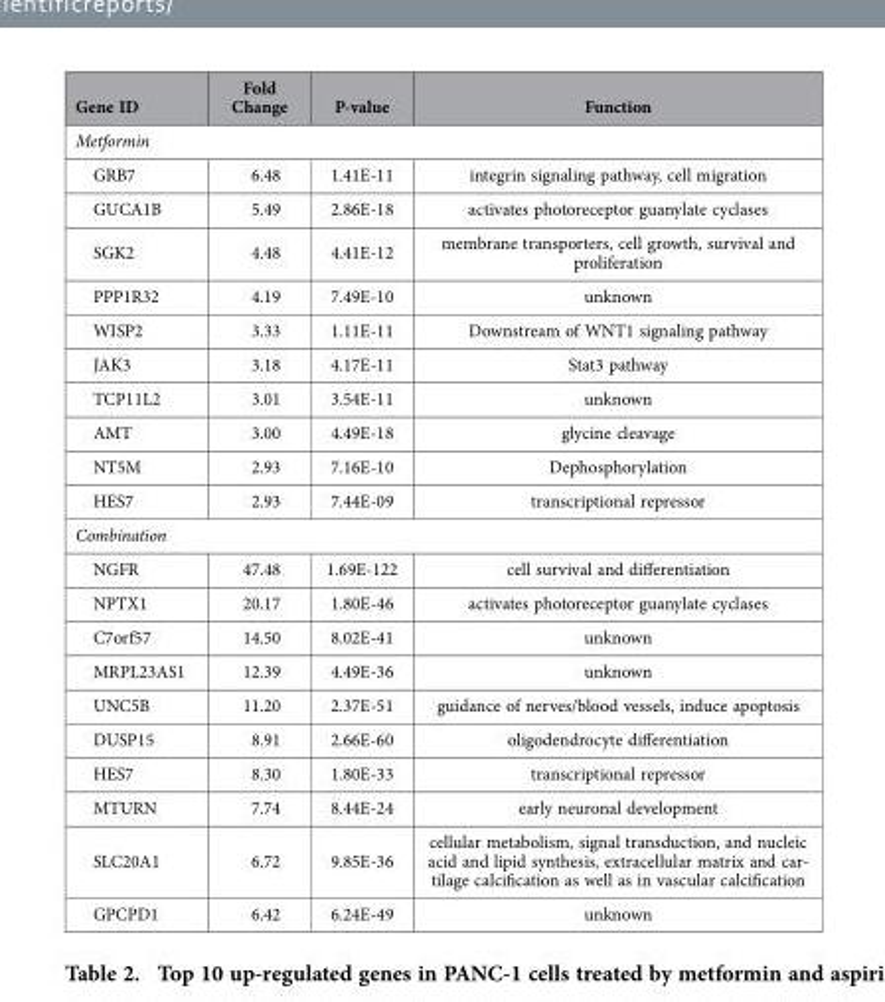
<table><thead><tr><td>Gene ID</td><td>Fold Change</td><td>P-value</td><td>Function</td></tr></thead><tbody><tr><td colspan="4">Metformin</td></tr><tr><td>GRB7</td><td>6.48</td><td>1.41E-11</td><td>integrin signaling pathway, cell migration</td></tr><tr><td>GUCA1B</td><td>5.49</td><td>2.86E-18</td><td>activates photoreceptor guanylate cyclases</td></tr><tr><td>SGK2</td><td>4.48</td><td>4.41E-12</td><td>membrane transporters, cell growth, survival and proliferation</td></tr><tr><td>PPP1R32</td><td>4.19</td><td>7.49E-10</td><td>unknown</td></tr><tr><td>WISP2</td><td>3.33</td><td>1.11E-11</td><td>Downstream of WNT1 signaling pathway</td></tr><tr><td>JAK3</td><td>3.18</td><td>4.17E-11</td><td>Stat3 pathway</td></tr><tr><td>TCP11L2</td><td>3.01</td><td>3.54E-11</td><td>unknown</td></tr><tr><td>AMT</td><td>3.00</td><td>4.49E-18</td><td>glycine cleavage</td></tr><tr><td>NT5M</td><td>2.93</td><td>7.16E-10</td><td>Dephosphorylation</td></tr><tr><td>HES7</td><td>2.93</td><td>7.44E-09</td><td>transcriptional repressor</td></tr><tr><td colspan="4">Combination</td></tr><tr><td>NGFR</td><td>47.48</td><td>1.69E-122</td><td>cell survival and differentiation</td></tr><tr><td>NPTX1</td><td>20.17</td><td>1.80E-46</td><td>activates photoreceptor guanylate cyclases</td></tr><tr><td>C7orf57</td><td>14.50</td><td>8.02E-41</td><td>unknown</td></tr><tr><td>MRPL23AS1</td><td>12.39</td><td>4.49E-36</td><td>unknown</td></tr><tr><td>UNC5B</td><td>11.20</td><td>2.37E-51</td><td>guidance of nerves/blood vessels, induce apoptosis</td></tr><tr><td>DUSP15</td><td>8.91</td><td>2.66E-60</td><td>oligodendrocyte differentiation</td></tr><tr><td>HES7</td><td>8.30</td><td>1.80E-33</td><td>transcriptional repressor</td></tr><tr><td>MTURN</td><td>7.74</td><td>8.44E-24</td><td>early neuronal development</td></tr><tr><td>SLC20A1</td><td>6.72</td><td>9.85E-36</td><td>cellular metabolism, signal transduction, and nucleic acid and lipid synthesis, extracellular matrix and car- tilage calcification as well as in vascular calcification</td></tr><tr><td>GPCPD1</td><td>6.42</td><td>6.24E-49</td><td>unknown</td></tr></tbody></table>